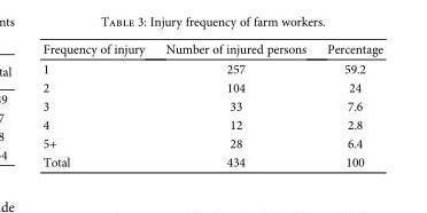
<table><thead><tr><td>Frequency of injury</td><td>Number of injured persons</td><td>Percentage</td></tr></thead><tbody><tr><td>1</td><td>257</td><td>59.2</td></tr><tr><td>2</td><td>104</td><td>24</td></tr><tr><td>3</td><td>33</td><td>7.6</td></tr><tr><td>4</td><td>12</td><td>2.8</td></tr><tr><td>5+</td><td>28</td><td>6.4</td></tr><tr><td>Total</td><td>434</td><td>100</td></tr></tbody></table>